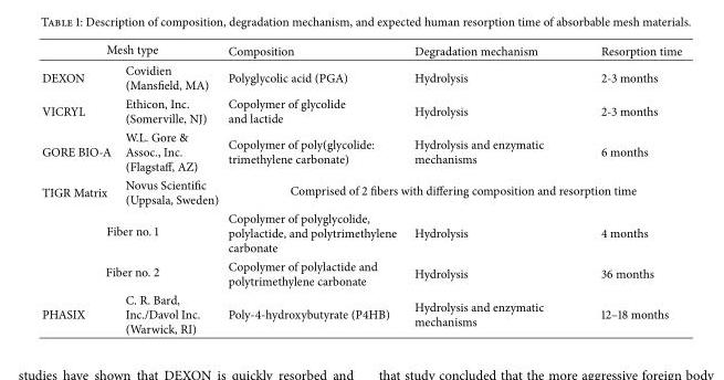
<table><thead><tr><td colspan="2">Mesh type</td><td rowspan="2">Composition Polyglycolic acid (PGA)</td><td rowspan="2">Degradation mechanism Hydrolysis</td><td rowspan="2">Resorption time 2-3 months</td></tr><tr><td>DEXON</td><td>Covidien (Mansfield, MA)</td></tr></thead><tbody><tr><td>VICRYL</td><td>Ethicon, Inc. (Somerville, NJ)</td><td>Copolymer of glycolide and lactide</td><td>Hydrolysis</td><td>2-3 months</td></tr><tr><td>GORE BIO-A</td><td>W.L. Gore &amp; Assoc., Inc. (Flagstaff, AZ)</td><td>Copolymer of poly(glycolide: trimethylene carbonate)</td><td>Hydrolysis and enzymatic mechanisms</td><td>6 months</td></tr><tr><td>TIGR Matrix</td><td>Novus Scientific (Uppsala, Sweden)</td><td colspan="3">Comprised of 2 fibers with differing composition and resorption time</td></tr><tr><td colspan="2">Fiber no. 1</td><td>Copolymer of polyglycolide, polylactide, and polytrimethylene carbonate</td><td>Hydrolysis</td><td>4 months</td></tr><tr><td colspan="2">Fiber no. 2</td><td>Copolymer of polylactide and polytrimethylene carbonate</td><td>Hydrolysis</td><td>36 months</td></tr><tr><td>PHASIX</td><td>C. R. Bard, Inc./Davol Inc. (Warwick, RI)</td><td>Poly-4-hydroxybutyrate (P4HB)</td><td>Hydrolysis and enzymatic mechanisms</td><td>12–18 months</td></tr></tbody></table>